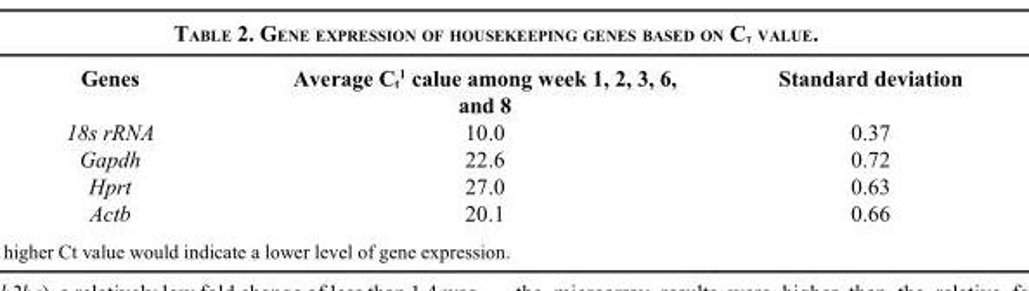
<table><thead><tr><td>Genes</td><td>Average C<sub>t</sub><sup>1</sup> calue among week 1, 2, 3, 6, and 8</td><td>Standard deviation</td></tr></thead><tbody><tr><td>18s rRNA</td><td>10.0</td><td>0.37</td></tr><tr><td>Gapdh</td><td>22.6</td><td>0.72</td></tr><tr><td>Hprt</td><td>27.0</td><td>0.63</td></tr><tr><td>Actb</td><td>20.1</td><td>0.66</td></tr></tbody></table>